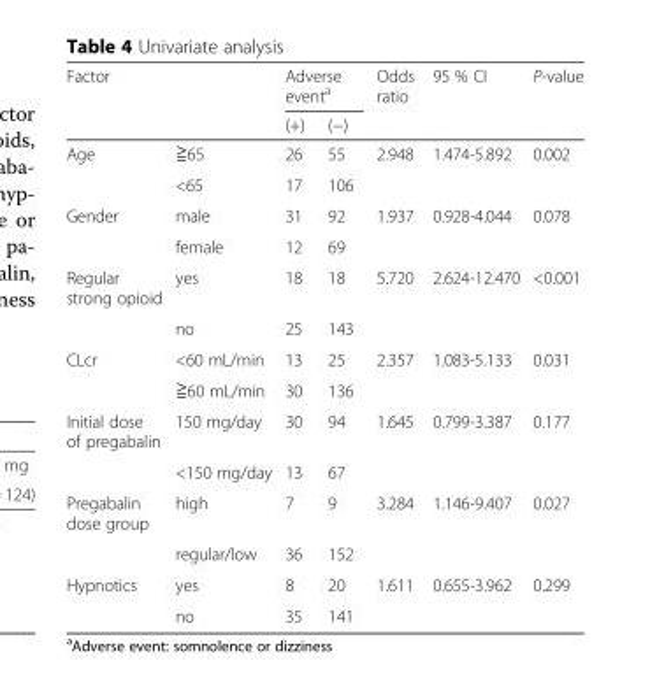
<table><thead><tr><td rowspan="2" colspan="2">Factor</td><td colspan="2">Adverse event<sup>a</sup></td><td rowspan="3">Odds ratio 2.948</td><td rowspan="3">95 % CI 1.474-5.892</td><td rowspan="3">P-value 0.002</td></tr><tr><td rowspan="2">(+) 26</td><td rowspan="2">(−) 55</td></tr><tr><td>Age</td><td>≧65</td></tr></thead><tbody><tr><td></td><td>&lt;65</td><td>17</td><td>106</td><td></td><td></td><td></td></tr><tr><td rowspan="2">Gender</td><td>male</td><td>31</td><td>92</td><td>1.937</td><td>0.928-4.044</td><td>0.078</td></tr><tr><td>female</td><td>12</td><td>69</td><td></td><td></td><td></td></tr><tr><td rowspan="2">Regular strong opioid</td><td>yes</td><td>18</td><td>18</td><td>5.720</td><td>2.624-12.470</td><td>&lt;0.001</td></tr><tr><td>no</td><td>25</td><td>143</td><td></td><td></td><td></td></tr><tr><td rowspan="2">CLcr</td><td>&lt;60 mL/min</td><td>13</td><td>25</td><td>2.357</td><td>1.083-5.133</td><td>0.031</td></tr><tr><td>≧60 mL/min</td><td>30</td><td>136</td><td></td><td></td><td></td></tr><tr><td rowspan="2">Initial dose of pregabalin</td><td>150 mg/day</td><td>30</td><td>94</td><td>1.645</td><td>0.799-3.387</td><td>0.177</td></tr><tr><td>&lt;150 mg/day</td><td>13</td><td>67</td><td></td><td></td><td></td></tr><tr><td rowspan="2">Pregabalin dose group</td><td>high</td><td>7</td><td>9</td><td>3.284</td><td>1.146-9.407</td><td>0.027</td></tr><tr><td>regular/low</td><td>36</td><td>152</td><td></td><td></td><td></td></tr><tr><td rowspan="2">Hypnotics</td><td>yes</td><td>8</td><td>20</td><td>1.611</td><td>0.655-3.962</td><td>0.299</td></tr><tr><td>no</td><td>35</td><td>141</td><td></td><td></td><td></td></tr></tbody></table>